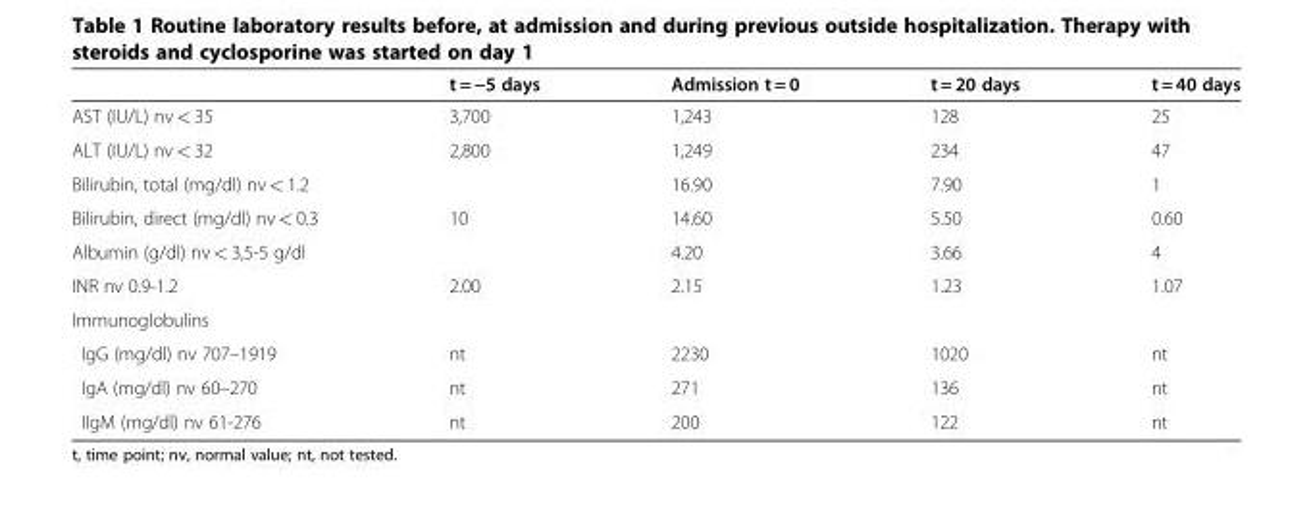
<table><thead><tr><td></td><td>t = −5 days</td><td>Admission t = 0</td><td>t = 20 days</td><td>t = 40 days</td></tr></thead><tbody><tr><td>AST (IU/L) nv &lt; 35</td><td>3,700</td><td>1,243</td><td>128</td><td>25</td></tr><tr><td>ALT (IU/L) nv &lt; 32</td><td>2,800</td><td>1,249</td><td>234</td><td>47</td></tr><tr><td>Bilirubin, total (mg/dl) nv &lt; 1.2</td><td></td><td>16.90</td><td>7.90</td><td>1</td></tr><tr><td>Bilirubin, direct (mg/dl) nv &lt; 0.3</td><td>10</td><td>14.60</td><td>5.50</td><td>0.60</td></tr><tr><td>Albumin (g/dl) nv &lt; 3,5-5 g/dl</td><td></td><td>4.20</td><td>3.66</td><td>4</td></tr><tr><td>INR nv 0.9-1.2</td><td>2.00</td><td>2.15</td><td>1.23</td><td>1.07</td></tr><tr><td colspan="5">Immunoglobulins</td></tr><tr><td>IgG (mg/dl) nv 707–1919</td><td>nt</td><td>2230</td><td>1020</td><td>nt</td></tr><tr><td>IgA (mg/dl) nv 60–270</td><td>nt</td><td>271</td><td>136</td><td>nt</td></tr><tr><td>IIgM (mg/dl) nv 61-276</td><td>nt</td><td>200</td><td>122</td><td>nt</td></tr></tbody></table>